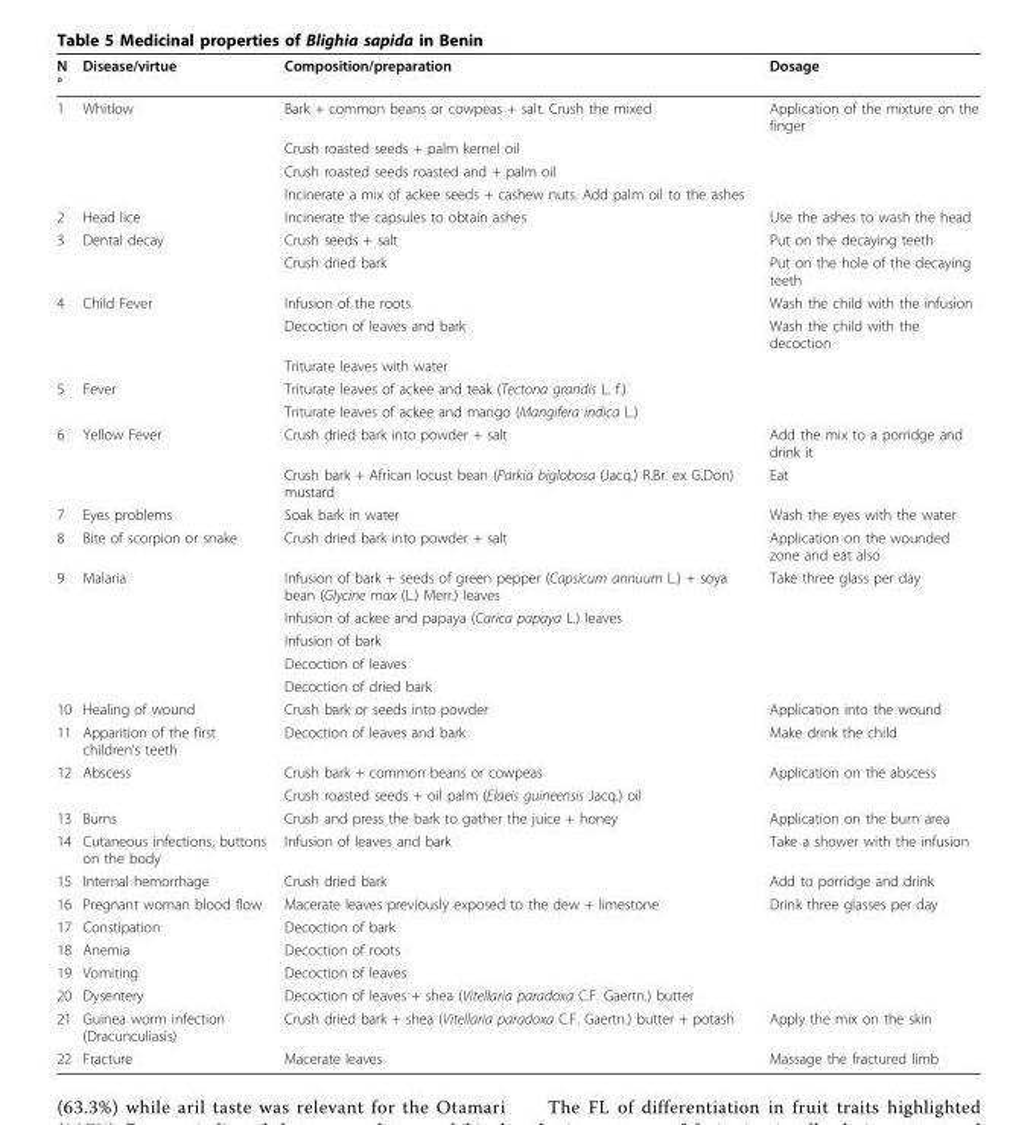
<table><thead><tr><td>N °</td><td>Disease/virtue</td><td>Composition/preparation</td><td>Dosage</td></tr></thead><tbody><tr><td rowspan="4">1</td><td>Whitlow</td><td>Bark + common beans or cowpeas + salt. Crush the mixed</td><td>Application of the mixture on the finger</td></tr><tr><td></td><td>Crush roasted seeds + palm kernel oil</td><td></td></tr><tr><td></td><td>Crush roasted seeds roasted and + palm oil</td><td></td></tr><tr><td></td><td>Incinerate a mix of ackee seeds + cashew nuts. Add palm oil to the ashes</td><td></td></tr><tr><td>2</td><td>Head lice</td><td>Incinerate the capsules to obtain ashes</td><td>Use the ashes to wash the head</td></tr><tr><td rowspan="2">3</td><td>Dental decay</td><td>Crush seeds + salt</td><td>Put on the decaying teeth</td></tr><tr><td></td><td>Crush dried bark</td><td>Put on the hole of the decaying teeth</td></tr><tr><td rowspan="3">4</td><td>Child Fever</td><td>Infusion of the roots</td><td>Wash the child with the infusion</td></tr><tr><td></td><td>Decoction of leaves and bark</td><td>Wash the child with the decoction</td></tr><tr><td></td><td>Triturate leaves with water</td><td></td></tr><tr><td rowspan="2">5</td><td>Fever</td><td>Triturate leaves of ackee and teak (Tectona grandis L. f.)</td><td></td></tr><tr><td></td><td>Triturate leaves of ackee and mango (Mangifera indica L.)</td><td></td></tr><tr><td rowspan="2">6</td><td>Yellow Fever</td><td>Crush dried bark into powder + salt</td><td>Add the mix to a porridge and drink it</td></tr><tr><td></td><td>Crush bark + African locust bean (Parkia biglobosa (Jacq.) R.Br. ex G.Don) mustard</td><td>Eat</td></tr><tr><td>7</td><td>Eyes problems</td><td>Soak bark in water</td><td>Wash the eyes with the water</td></tr><tr><td>8</td><td>Bite of scorpion or snake</td><td>Crush dried bark into powder + salt</td><td>Application on the wounded zone and eat also</td></tr><tr><td rowspan="5">9</td><td>Malaria</td><td>Infusion of bark + seeds of green pepper (Capsicum annuum L.) + soya bean (Glycine max (L.) Merr.) leaves</td><td>Take three glass per day</td></tr><tr><td></td><td>Infusion of ackee and papaya (Carica papaya L.) leaves</td><td></td></tr><tr><td></td><td>Infusion of bark</td><td></td></tr><tr><td></td><td>Decoction of leaves</td><td></td></tr><tr><td></td><td>Decoction of dried bark</td><td></td></tr><tr><td>10</td><td>Healing of wound</td><td>Crush bark or seeds into powder</td><td>Application into the wound</td></tr><tr><td>11</td><td>Apparition of the first children’s teeth</td><td>Decoction of leaves and bark</td><td>Make drink the child</td></tr><tr><td rowspan="2">12</td><td>Abscess</td><td>Crush bark + common beans or cowpeas</td><td>Application on the abscess</td></tr><tr><td></td><td>Crush roasted seeds + oil palm (Elaeis guineensis Jacq.) oil</td><td></td></tr><tr><td>13</td><td>Burns</td><td>Crush and press the bark to gather the juice + honey</td><td>Application on the burn area</td></tr><tr><td>14</td><td>Cutaneous infections, buttons on the body</td><td>Infusion of leaves and bark</td><td>Take a shower with the infusion</td></tr><tr><td>15</td><td>Internal hemorrhage</td><td>Crush dried bark</td><td>Add to porridge and drink</td></tr><tr><td>16</td><td>Pregnant woman blood flow</td><td>Macerate leaves previously exposed to the dew + limestone</td><td>Drink three glasses per day</td></tr><tr><td>17</td><td>Constipation</td><td>Decoction of bark</td><td></td></tr><tr><td>18</td><td>Anemia</td><td>Decoction of roots</td><td></td></tr><tr><td>19</td><td>Vomiting</td><td>Decoction of leaves</td><td></td></tr><tr><td>20</td><td>Dysentery</td><td>Decoction of leaves + shea (Vitellaria paradoxa C.F. Gaertn.) butter</td><td></td></tr><tr><td>21</td><td>Guinea worm infection (Dracunculiasis)</td><td>Crush dried bark + shea (Vitellaria paradoxa C.F. Gaertn.) butter + potash</td><td>Apply the mix on the skin</td></tr><tr><td>22</td><td>Fracture</td><td>Macerate leaves</td><td>Massage the fractured limb</td></tr></tbody></table>